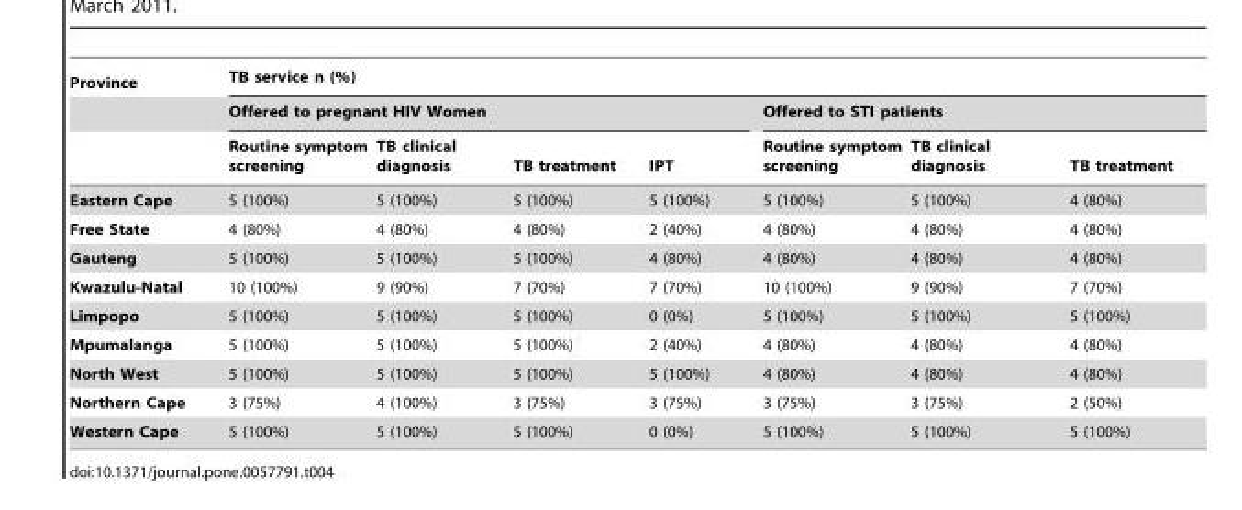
<table><thead><tr><td rowspan="3">Province</td><td colspan="7">TB service n (%)</td></tr><tr><td colspan="4">Offered to pregnant HIV Women</td><td colspan="3">Offered to STI patients</td></tr><tr><td>Routine symptom screening</td><td>TB clinical diagnosis</td><td>TB treatment</td><td>IPT</td><td>Routine symptom screening</td><td>TB clinical diagnosis</td><td>TB treatment</td></tr></thead><tbody><tr><td>Eastern Cape</td><td>5 (100%)</td><td>5 (100%)</td><td>5 (100%)</td><td>5 (100%)</td><td>5 (100%)</td><td>5 (100%)</td><td>4 (80%)</td></tr><tr><td>Free State</td><td>4 (80%)</td><td>4 (80%)</td><td>4 (80%)</td><td>2 (40%)</td><td>4 (80%)</td><td>4 (80%)</td><td>4 (80%)</td></tr><tr><td>Gauteng</td><td>5 (100%)</td><td>5 (100%)</td><td>5 (100%)</td><td>4 (80%)</td><td>4 (80%)</td><td>4 (80%)</td><td>4 (80%)</td></tr><tr><td>Kwazulu-Natal</td><td>10 (100%)</td><td>9 (90%)</td><td>7 (70%)</td><td>7 (70%)</td><td>10 (100%)</td><td>9 (90%)</td><td>7 (70%)</td></tr><tr><td>Limpopo</td><td>5 (100%)</td><td>5 (100%)</td><td>5 (100%)</td><td>0 (0%)</td><td>5 (100%)</td><td>5 (100%)</td><td>5 (100%)</td></tr><tr><td>Mpumalanga</td><td>5 (100%)</td><td>5 (100%)</td><td>5 (100%)</td><td>2 (40%)</td><td>4 (80%)</td><td>4 (80%)</td><td>4 (80%)</td></tr><tr><td>North West</td><td>5 (100%)</td><td>5 (100%)</td><td>5 (100%)</td><td>5 (100%)</td><td>4 (80%)</td><td>4 (80%)</td><td>4 (80%)</td></tr><tr><td>Northern Cape</td><td>3 (75%)</td><td>4 (100%)</td><td>3 (75%)</td><td>3 (75%)</td><td>3 (75%)</td><td>3 (75%)</td><td>2 (50%)</td></tr><tr><td>Western Cape</td><td>5 (100%)</td><td>5 (100%)</td><td>5 (100%)</td><td>0 (0%)</td><td>5 (100%)</td><td>5 (100%)</td><td>5 (100%)</td></tr></tbody></table>